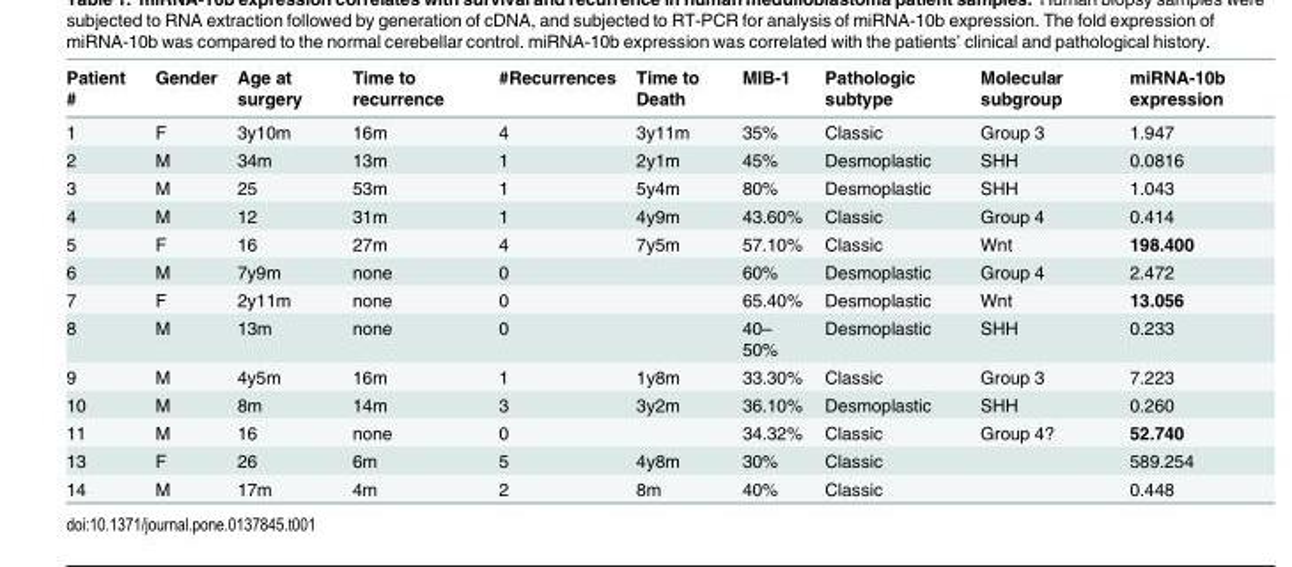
<table><thead><tr><td>Patient #</td><td>Gender</td><td>Age at surgery</td><td>Time to recurrence</td><td>#Recurrences</td><td>Time to Death</td><td>MIB-1</td><td>Pathologic subtype</td><td>Molecular subgroup</td><td>miRNA-10b expression</td></tr></thead><tbody><tr><td>1</td><td>F</td><td>3y10m</td><td>16m</td><td>4</td><td>3y11m</td><td>35%</td><td>Classic</td><td>Group 3</td><td>1.947</td></tr><tr><td>2</td><td>M</td><td>34m</td><td>13m</td><td>1</td><td>2y1m</td><td>45%</td><td>Desmoplastic</td><td>SHH</td><td>0.0816</td></tr><tr><td>3</td><td>M</td><td>25</td><td>53m</td><td>1</td><td>5y4m</td><td>80%</td><td>Desmoplastic</td><td>SHH</td><td>1.043</td></tr><tr><td>4</td><td>M</td><td>12</td><td>31m</td><td>1</td><td>4y9m</td><td>43.60%</td><td>Classic</td><td>Group 4</td><td>0.414</td></tr><tr><td>5</td><td>F</td><td>16</td><td>27m</td><td>4</td><td>7y5m</td><td>57.10%</td><td>Classic</td><td>Wnt</td><td>198.400</td></tr><tr><td>6</td><td>M</td><td>7y9m</td><td>none</td><td>0</td><td></td><td>60%</td><td>Desmoplastic</td><td>Group 4</td><td>2.472</td></tr><tr><td>7</td><td>F</td><td>2y11m</td><td>none</td><td>0</td><td></td><td>65.40%</td><td>Desmoplastic</td><td>Wnt</td><td>13.056</td></tr><tr><td>8</td><td>M</td><td>13m</td><td>none</td><td>0</td><td></td><td>40– 50%</td><td>Desmoplastic</td><td>SHH</td><td>0.233</td></tr><tr><td>9</td><td>M</td><td>4y5m</td><td>16m</td><td>1</td><td>1y8m</td><td>33.30%</td><td>Classic</td><td>Group 3</td><td>7.223</td></tr><tr><td>10</td><td>M</td><td>8m</td><td>14m</td><td>3</td><td>3y2m</td><td>36.10%</td><td>Desmoplastic</td><td>SHH</td><td>0.260</td></tr><tr><td>11</td><td>M</td><td>16</td><td>none</td><td>0</td><td></td><td>34.32%</td><td>Classic</td><td>Group 4?</td><td>52.740</td></tr><tr><td>13</td><td>F</td><td>26</td><td>6m</td><td>5</td><td>4y8m</td><td>30%</td><td>Classic</td><td></td><td>589.254</td></tr><tr><td>14</td><td>M</td><td>17m</td><td>4m</td><td>2</td><td>8m</td><td>40%</td><td>Classic</td><td></td><td>0.448</td></tr></tbody></table>